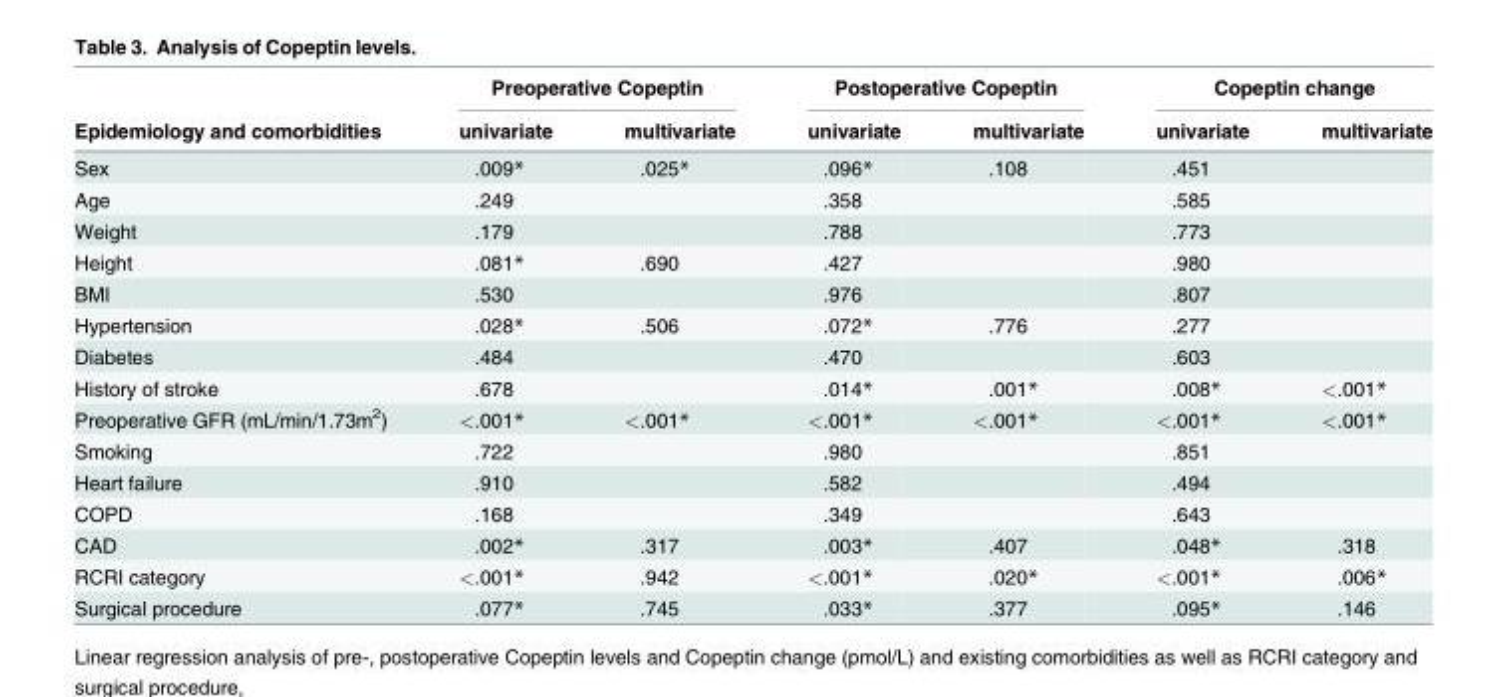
<table><thead><tr><td rowspan="2">Epidemiology and comorbidities</td><td colspan="2">Preoperative Copeptin</td><td colspan="2">Postoperative Copeptin</td><td colspan="2">Copeptin change</td></tr><tr><td>univariate</td><td>multivariate</td><td>univariate</td><td>multivariate</td><td>univariate</td><td>multivariate</td></tr></thead><tbody><tr><td>Sex</td><td>.009*</td><td>.025*</td><td>.096*</td><td>.108</td><td>.451</td><td></td></tr><tr><td>Age</td><td>.249</td><td></td><td>.358</td><td></td><td>.585</td><td></td></tr><tr><td>Weight</td><td>.179</td><td></td><td>.788</td><td></td><td>.773</td><td></td></tr><tr><td>Height</td><td>.081*</td><td>.690</td><td>.427</td><td></td><td>.980</td><td></td></tr><tr><td>BMI</td><td>.530</td><td></td><td>.976</td><td></td><td>.807</td><td></td></tr><tr><td>Hypertension</td><td>.028*</td><td>.506</td><td>.072*</td><td>.776</td><td>.277</td><td></td></tr><tr><td>Diabetes</td><td>.484</td><td></td><td>.470</td><td></td><td>.603</td><td></td></tr><tr><td>History of stroke</td><td>.678</td><td></td><td>.014*</td><td>.001*</td><td>.008*</td><td>&lt;.001*</td></tr><tr><td>Preoperative GFR (mL/min/1.73m<sup>2</sup>)</td><td>&lt;.001*</td><td>&lt;.001*</td><td>&lt;.001*</td><td>&lt;.001*</td><td>&lt;.001*</td><td>&lt;.001*</td></tr><tr><td>Smoking</td><td>.722</td><td></td><td>.980</td><td></td><td>.851</td><td></td></tr><tr><td>Heart failure</td><td>.910</td><td></td><td>.582</td><td></td><td>.494</td><td></td></tr><tr><td>COPD</td><td>.168</td><td></td><td>.349</td><td></td><td>.643</td><td></td></tr><tr><td>CAD</td><td>.002*</td><td>.317</td><td>.003*</td><td>.407</td><td>.048*</td><td>.318</td></tr><tr><td>RCRI category</td><td>&lt;.001*</td><td>.942</td><td>&lt;.001*</td><td>.020*</td><td>&lt;.001*</td><td>.006*</td></tr><tr><td>Surgical procedure</td><td>.077*</td><td>.745</td><td>.033*</td><td>.377</td><td>.095*</td><td>.146</td></tr></tbody></table>